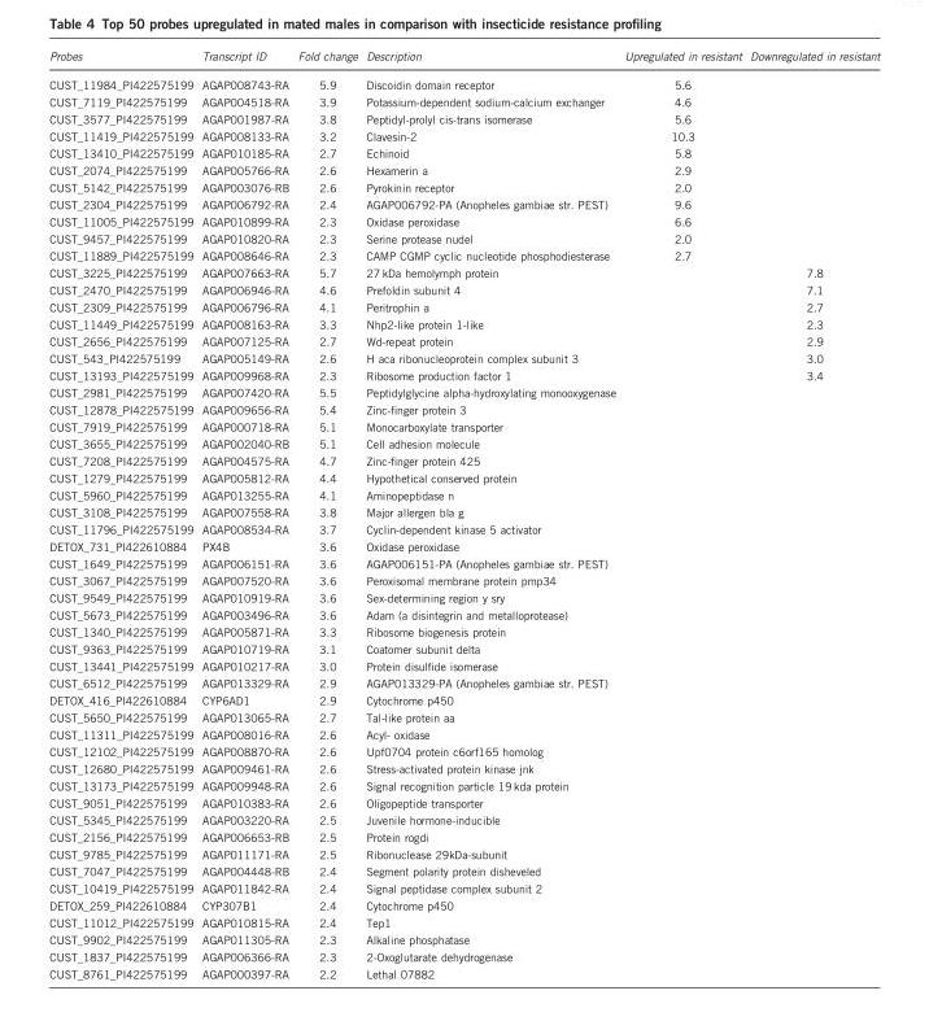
<table><thead><tr><td>Probes</td><td>Transcript ID</td><td>Fold change</td><td>Description</td><td>Upregulated in resistant</td><td>Downregulated in resistant</td></tr></thead><tbody><tr><td>CUST_11984_PI422575199</td><td>AGAP008743-RA</td><td>5.9</td><td>Discoidin domain receptor</td><td>5.6</td><td></td></tr><tr><td>CUST_7119_PI422575199</td><td>AGAP004518-RA</td><td>3.9</td><td>Potassium-dependent sodium-calcium exchanger</td><td>4.6</td><td></td></tr><tr><td>CUST_3577_PI422575199</td><td>AGAP001987-RA</td><td>3.8</td><td>Peptidyl-prolyl cis-trans isomerase</td><td>5.6</td><td></td></tr><tr><td>CUST_11419_PI422575199</td><td>AGAP008133-RA</td><td>3.2</td><td>Clavesin-2</td><td>10.3</td><td></td></tr><tr><td>CUST_13410_PI422575199</td><td>AGAP010185-RA</td><td>2.7</td><td>Echinoid</td><td>5.8</td><td></td></tr><tr><td>CUST_2074_PI422575199</td><td>AGAP005766-RA</td><td>2.6</td><td>Hexamerin a</td><td>2.9</td><td></td></tr><tr><td>CUST_5142_PI422575199</td><td>AGAP003076-RB</td><td>2.6</td><td>Pyrokinin receptor</td><td>2.0</td><td></td></tr><tr><td>CUST_2304_PI422575199</td><td>AGAP006792-RA</td><td>2.4</td><td>AGAP006792-PA (Anopheles gambiae str. PEST)</td><td>9.6</td><td></td></tr><tr><td>CUST_11005_PI422575199</td><td>AGAP010899-RA</td><td>2.3</td><td>Oxidase peroxidase</td><td>6.6</td><td></td></tr><tr><td>CUST_9457_PI422575199</td><td>AGAP010820-RA</td><td>2.3</td><td>Serine protease nudel</td><td>2.0</td><td></td></tr><tr><td>CUST_11889_PI422575199</td><td>AGAP008646-RA</td><td>2.3</td><td>CAMP CGMP cyclic nucleotide phosphodiesterase</td><td>2.7</td><td></td></tr><tr><td>CUST_3225_PI422575199</td><td>AGAP007663-RA</td><td>5.7</td><td>27 kDa hemolymph protein</td><td></td><td>7.8</td></tr><tr><td>CUST_2470_PI422575199</td><td>AGAP006946-RA</td><td>4.6</td><td>Prefoldin subunit 4</td><td></td><td>7.1</td></tr><tr><td>CUST_2309_PI422575199</td><td>AGAP006796-RA</td><td>4.1</td><td>Peritrophin a</td><td></td><td>2.7</td></tr><tr><td>CUST_11449_PI422575199</td><td>AGAP008163-RA</td><td>3.3</td><td>Nhp2-like protein 1-like</td><td></td><td>2.3</td></tr><tr><td>CUST_2656_PI422575199</td><td>AGAP007125-RA</td><td>2.7</td><td>Wd-repeat protein</td><td></td><td>2.9</td></tr><tr><td>CUST_543_PI422575199</td><td>AGAP005149-RA</td><td>2.6</td><td>H aca ribonucleoprotein complex subunit 3</td><td></td><td>3.0</td></tr><tr><td>CUST_13193_PI422575199</td><td>AGAP009968-RA</td><td>2.3</td><td>Ribosome production factor 1</td><td></td><td>3.4</td></tr><tr><td>CUST_2981_PI422575199</td><td>AGAP007420-RA</td><td>5.5</td><td>Peptidylglycine alpha-hydroxylating monooxygenase</td><td></td><td></td></tr><tr><td>CUST_12878_PI422575199</td><td>AGAP009656-RA</td><td>5.4</td><td>Zinc-finger protein 3</td><td></td><td></td></tr><tr><td>CUST_7919_PI422575199</td><td>AGAP000718-RA</td><td>5.1</td><td>Monocarboxylate transporter</td><td></td><td></td></tr><tr><td>CUST_3655_PI422575199</td><td>AGAP002040-RB</td><td>5.1</td><td>Cell adhesion molecule</td><td></td><td></td></tr><tr><td>CUST_7208_PI422575199</td><td>AGAP004575-RA</td><td>4.7</td><td>Zinc-finger protein 425</td><td></td><td></td></tr><tr><td>CUST_1279_PI422575199</td><td>AGAP005812-RA</td><td>4.4</td><td>Hypothetical conserved protein</td><td></td><td></td></tr><tr><td>CUST_5960_PI422575199</td><td>AGAP013255-RA</td><td>4.1</td><td>Aminopeptidase n</td><td></td><td></td></tr><tr><td>CUST_3108_PI422575199</td><td>AGAP007558-RA</td><td>3.8</td><td>Major allergen bla g</td><td></td><td></td></tr><tr><td>CUST_11796_PI422575199</td><td>AGAP008534-RA</td><td>3.7</td><td>Cyclin-dependent kinase 5 activator</td><td></td><td></td></tr><tr><td>DETOX_731_PI422610884</td><td>PX4B</td><td>3.6</td><td>Oxidase peroxidase</td><td></td><td></td></tr><tr><td>CUST_1649_PI422575199</td><td>AGAP006151-RA</td><td>3.6</td><td>AGAP006151-PA (Anopheles gambiae str. PEST)</td><td></td><td></td></tr><tr><td>CUST_3067_PI422575199</td><td>AGAP007520-RA</td><td>3.6</td><td>Peroxisomal membrane protein pmp34</td><td></td><td></td></tr><tr><td>CUST_9549_PI422575199</td><td>AGAP010919-RA</td><td>3.6</td><td>Sex-determining region y sry</td><td></td><td></td></tr><tr><td>CUST_5673_PI422575199</td><td>AGAP003496-RA</td><td>3.6</td><td>Adam (a disintegrin and metalloprotease)</td><td></td><td></td></tr><tr><td>CUST_1340_PI422575199</td><td>AGAP005871-RA</td><td>3.3</td><td>Ribosome biogenesis protein</td><td></td><td></td></tr><tr><td>CUST_9363_PI422575199</td><td>AGAP010719-RA</td><td>3.1</td><td>Coatomer subunit delta</td><td></td><td></td></tr><tr><td>CUST_13441_PI422575199</td><td>AGAP010217-RA</td><td>3.0</td><td>Protein disulfide isomerase</td><td></td><td></td></tr><tr><td>CUST_6512_PI422575199</td><td>AGAP013329-RA</td><td>2.9</td><td>AGAP013329-PA (Anopheles gambiae str. PEST)</td><td></td><td></td></tr><tr><td>DETOX_416_PI422610884</td><td>CYP6AD1</td><td>2.9</td><td>Cytochrome p450</td><td></td><td></td></tr><tr><td>CUST_5650_PI422575199</td><td>AGAP013065-RA</td><td>2.7</td><td>Tal-like protein aa</td><td></td><td></td></tr><tr><td>CUST_11311_PI422575199</td><td>AGAP008016-RA</td><td>2.6</td><td>Acyl- oxidase</td><td></td><td></td></tr><tr><td>CUST_12102_PI422575199</td><td>AGAP008870-RA</td><td>2.6</td><td>Upf0704 protein c6orf165 homolog</td><td></td><td></td></tr><tr><td>CUST_12680_PI422575199</td><td>AGAP009461-RA</td><td>2.6</td><td>Stress-activated protein kinase jnk</td><td></td><td></td></tr><tr><td>CUST_13173_PI422575199</td><td>AGAP009948-RA</td><td>2.6</td><td>Signal recognition particle 19 kda protein</td><td></td><td></td></tr><tr><td>CUST_9051_PI422575199</td><td>AGAP010383-RA</td><td>2.6</td><td>Oligopeptide transporter</td><td></td><td></td></tr><tr><td>CUST_5345_PI422575199</td><td>AGAP003220-RA</td><td>2.5</td><td>Juvenile hormone-inducible</td><td></td><td></td></tr><tr><td>CUST_2156_PI422575199</td><td>AGAP006653-RB</td><td>2.5</td><td>Protein rogdi</td><td></td><td></td></tr><tr><td>CUST_9785_PI422575199</td><td>AGAP011171-RA</td><td>2.5</td><td>Ribonuclease 29kDa-subunit</td><td></td><td></td></tr><tr><td>CUST_7047_PI422575199</td><td>AGAP004448-RB</td><td>2.4</td><td>Segment polarity protein disheveled</td><td></td><td></td></tr><tr><td>CUST_10419_PI422575199</td><td>AGAP011842-RA</td><td>2.4</td><td>Signal peptidase complex subunit 2</td><td></td><td></td></tr><tr><td>DETOX_259_PI422610884</td><td>CYP307B1</td><td>2.4</td><td>Cytochrome p450</td><td></td><td></td></tr><tr><td>CUST_11012_PI422575199</td><td>AGAP010815-RA</td><td>2.4</td><td>Tep1</td><td></td><td></td></tr><tr><td>CUST_9902_PI422575199</td><td>AGAP011305-RA</td><td>2.3</td><td>Alkaline phosphatase</td><td></td><td></td></tr><tr><td>CUST_1837_PI422575199</td><td>AGAP006366-RA</td><td>2.3</td><td>2-Oxoglutarate dehydrogenase</td><td></td><td></td></tr><tr><td>CUST_8761_PI422575199</td><td>AGAP000397-RA</td><td>2.2</td><td>Lethal 07882</td><td></td><td></td></tr></tbody></table>